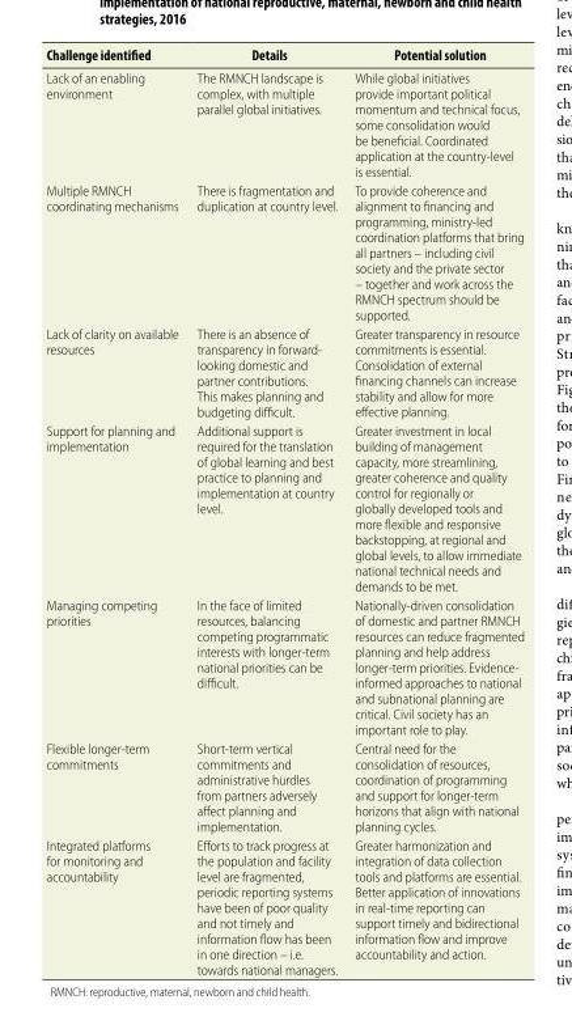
<table><thead><tr><td>Challenge identified</td><td>Details</td><td>Potential solution</td></tr></thead><tbody><tr><td>Lack of an enabling environment</td><td>The RMNCH landscape is complex, with multiple parallel global initiatives.</td><td>While global initiatives provide important political momentum and technical focus, some consolidation would be beneficial. Coordinated application at the country-level is essential.</td></tr><tr><td>Multiple RMNCH coordinating mechanisms</td><td>There is fragmentation and duplication at country level.</td><td>To provide coherence and alignment to financing and programming, ministry-led coordination platforms that bring all partners – including civil society and the private sector – together and work across the RMNCH spectrum should be supported.</td></tr><tr><td>Lack of clarity on available resources</td><td>There is an absence of transparency in forward- looking domestic and partner contributions. This makes planning and budgeting difficult.</td><td>Greater transparency in resource commitments is essential. Consolidation of external financing channels can increase stability and allow for more effective planning.</td></tr><tr><td>Support for planning and implementation</td><td>Additional support is required for the translation of global learning and best practice to planning and implementation at country level.</td><td>Greater investment in local building of management capacity, more streamlining, greater coherence and quality control for regionally or globally developed tools and more flexible and responsive backstopping, at regional and global levels, to allow immediate national technical needs and demands to be met.</td></tr><tr><td>Managing competing priorities</td><td>In the face of limited resources, balancing competing programmatic interests with longer-term national priorities can be difficult.</td><td>Nationally-driven consolidation of domestic and partner RMNCH resources can reduce fragmented planning and help address longer-term priorities. Evidence- informed approaches to national and subnational planning are critical. Civil society has an important role to play.</td></tr><tr><td>Flexible longer-term commitments</td><td>Short-term vertical commitments and administrative hurdles from partners adversely affect planning and implementation.</td><td>Central need for the consolidation of resources, coordination of programming and support for longer-term horizons that align with national planning cycles.</td></tr><tr><td>Integrated platforms for monitoring and accountability</td><td>Efforts to track progress at the population and facility level are fragmented, periodic reporting systems have been of poor quality and not timely and information flow has been in one direction – i.e. towards national managers.</td><td>Greater harmonization and integration of data collection tools and platforms are essential. Better application of innovations in real-time reporting can support timely and bidirectional information flow and improve accountability and action.</td></tr></tbody></table>